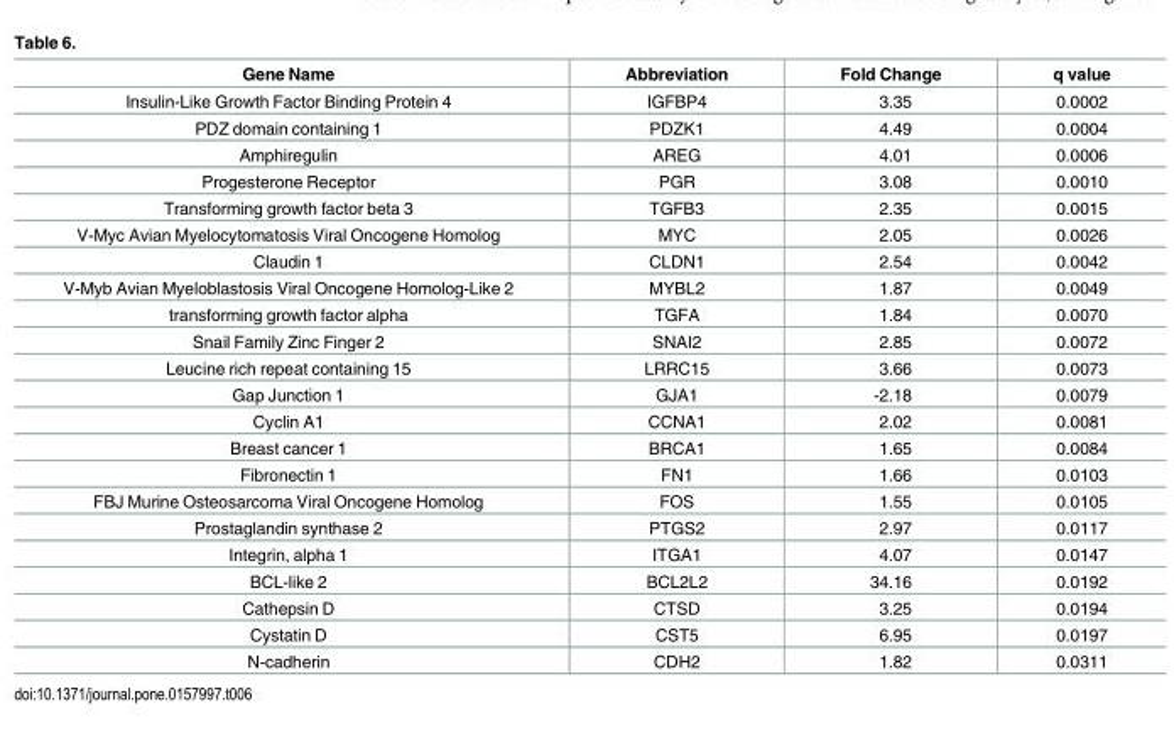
<table><thead><tr><td>Gene Name</td><td>Abbreviation</td><td>Fold Change</td><td>q value</td></tr></thead><tbody><tr><td>Insulin-Like Growth Factor Binding Protein 4</td><td>IGFBP4</td><td>3.35</td><td>0.0002</td></tr><tr><td>PDZ domain containing 1</td><td>PDZK1</td><td>4.49</td><td>0.0004</td></tr><tr><td>Amphiregulin</td><td>AREG</td><td>4.01</td><td>0.0006</td></tr><tr><td>Progesterone Receptor</td><td>PGR</td><td>3.08</td><td>0.0010</td></tr><tr><td>Transforming growth factor beta 3</td><td>TGFB3</td><td>2.35</td><td>0.0015</td></tr><tr><td>V-Myc Avian Myelocytomatosis Viral Oncogene Homolog</td><td>MYC</td><td>2.05</td><td>0.0026</td></tr><tr><td>Claudin 1</td><td>CLDN1</td><td>2.54</td><td>0.0042</td></tr><tr><td>V-Myb Avian Myeloblastosis Viral Oncogene Homolog-Like 2</td><td>MYBL2</td><td>1.87</td><td>0.0049</td></tr><tr><td>transforming growth factor alpha</td><td>TGFA</td><td>1.84</td><td>0.0070</td></tr><tr><td>Snail Family Zinc Finger 2</td><td>SNAI2</td><td>2.85</td><td>0.0072</td></tr><tr><td>Leucine rich repeat containing 15</td><td>LRRC15</td><td>3.66</td><td>0.0073</td></tr><tr><td>Gap Junction 1</td><td>GJA1</td><td>-2.18</td><td>0.0079</td></tr><tr><td>Cyclin A1</td><td>CCNA1</td><td>2.02</td><td>0.0081</td></tr><tr><td>Breast cancer 1</td><td>BRCA1</td><td>1.65</td><td>0.0084</td></tr><tr><td>Fibronectin 1</td><td>FN1</td><td>1.66</td><td>0.0103</td></tr><tr><td>FBJ Murine Osteosarcoma Viral Oncogene Homolog</td><td>FOS</td><td>1.55</td><td>0.0105</td></tr><tr><td>Prostaglandin synthase 2</td><td>PTGS2</td><td>2.97</td><td>0.0117</td></tr><tr><td>Integrin, alpha 1</td><td>ITGA1</td><td>4.07</td><td>0.0147</td></tr><tr><td>BCL-like 2</td><td>BCL2L2</td><td>34.16</td><td>0.0192</td></tr><tr><td>Cathepsin D</td><td>CTSD</td><td>3.25</td><td>0.0194</td></tr><tr><td>Cystatin D</td><td>CST5</td><td>6.95</td><td>0.0197</td></tr><tr><td>N-cadherin</td><td>CDH2</td><td>1.82</td><td>0.0311</td></tr></tbody></table>